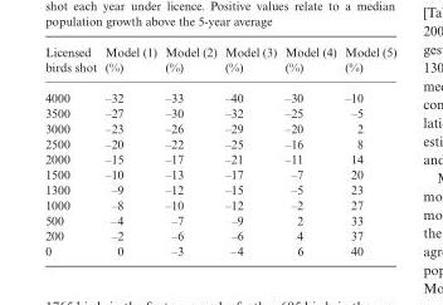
<table><thead><tr><td>Licensed birds shot</td><td>Model (1) (%)</td><td>Model (2) (%)</td><td>Model (3) (%)</td><td>Model (4) (%)</td><td>Model (5) (%)</td></tr></thead><tbody><tr><td>4000</td><td>–32</td><td>–33</td><td>–40</td><td>–30</td><td>–10</td></tr><tr><td>3500</td><td>–27</td><td>–30</td><td>–32</td><td>–25</td><td>–5</td></tr><tr><td>3000</td><td>–23</td><td>–26</td><td>–29</td><td>–20</td><td>2</td></tr><tr><td>2500</td><td>–20</td><td>–22</td><td>–25</td><td>–16</td><td>8</td></tr><tr><td>2000</td><td>–15</td><td>–17</td><td>–21</td><td>–11</td><td>14</td></tr><tr><td>1500</td><td>–10</td><td>–13</td><td>–17</td><td>–7</td><td>20</td></tr><tr><td>1300</td><td>–9</td><td>–12</td><td>–15</td><td>–5</td><td>23</td></tr><tr><td>1000</td><td>–8</td><td>–10</td><td>–12</td><td>–2</td><td>27</td></tr><tr><td>500</td><td>–4</td><td>–7</td><td>–9</td><td>2</td><td>33</td></tr><tr><td>200</td><td>–2</td><td>–6</td><td>–6</td><td>4</td><td>37</td></tr><tr><td>0</td><td>0</td><td>–3</td><td>–4</td><td>6</td><td>40</td></tr></tbody></table>